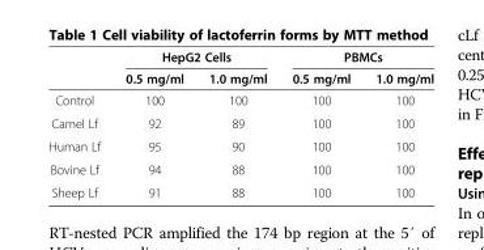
<table><thead><tr><td rowspan="2"></td><td colspan="2">HepG2 Cells</td><td colspan="2">PBMCs</td></tr><tr><td>0.5 mg/ml</td><td>1.0 mg/ml</td><td>0.5 mg/ml</td><td>1.0 mg/ml</td></tr></thead><tbody><tr><td>Control</td><td>100</td><td>100</td><td>100</td><td>100</td></tr><tr><td>Camel Lf</td><td>92</td><td>89</td><td>100</td><td>100</td></tr><tr><td>Human Lf</td><td>95</td><td>90</td><td>100</td><td>100</td></tr><tr><td>Bovine Lf</td><td>94</td><td>88</td><td>100</td><td>100</td></tr><tr><td>Sheep Lf</td><td>91</td><td>88</td><td>100</td><td>100</td></tr></tbody></table>